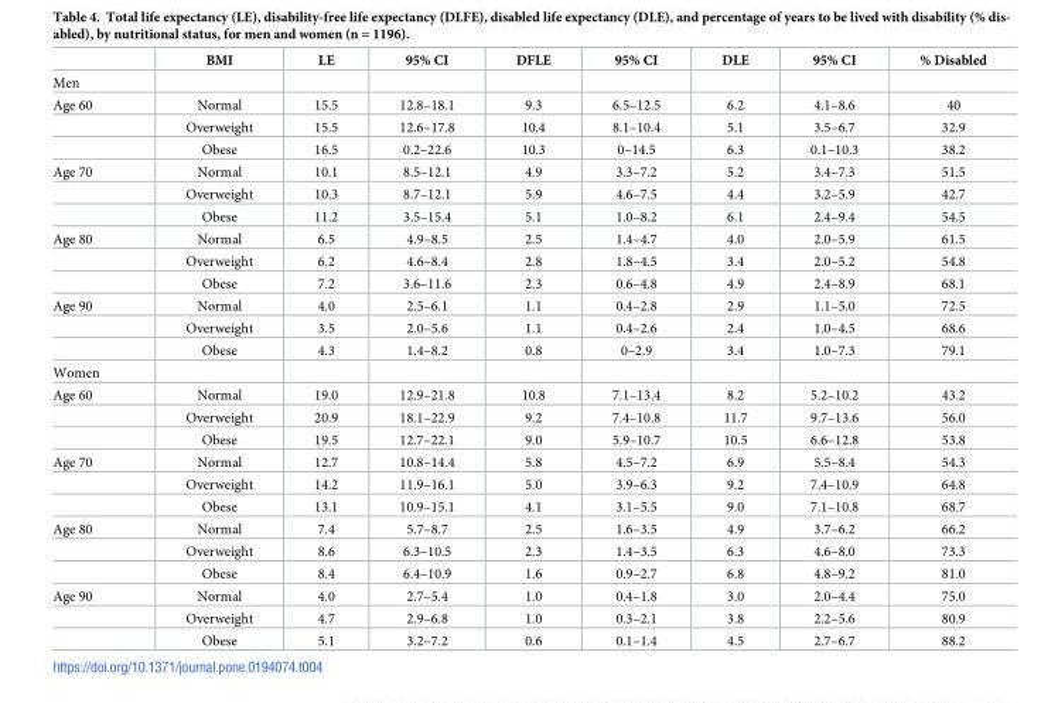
<table><thead><tr><td></td><td>BMI</td><td>LE</td><td>95% CI</td><td>DFLE</td><td>95% CI</td><td>DLE</td><td>95% CI</td><td>% Disabled</td></tr></thead><tbody><tr><td colspan="9">Men</td></tr><tr><td rowspan="3">Age 60</td><td>Normal</td><td>15.5</td><td>12.8–18.1</td><td>9.3</td><td>6.5–12.5</td><td>6.2</td><td>4.1–8.6</td><td>40</td></tr><tr><td>Overweight</td><td>15.5</td><td>12.6–17.8</td><td>10.4</td><td>8.1–10.4</td><td>5.1</td><td>3.5–6.7</td><td>32.9</td></tr><tr><td>Obese</td><td>16.5</td><td>0.2–22.6</td><td>10.3</td><td>0–14.5</td><td>6.3</td><td>0.1–10.3</td><td>38.2</td></tr><tr><td rowspan="3">Age 70</td><td>Normal</td><td>10.1</td><td>8.5–12.1</td><td>4.9</td><td>3.3–7.2</td><td>5.2</td><td>3.4–7.3</td><td>51.5</td></tr><tr><td>Overweight</td><td>10.3</td><td>8.7–12.1</td><td>5.9</td><td>4.6–7.5</td><td>4.4</td><td>3.2–5.9</td><td>42.7</td></tr><tr><td>Obese</td><td>11.2</td><td>3.5–15.4</td><td>5.1</td><td>1.0–8.2</td><td>6.1</td><td>2.4–9.4</td><td>54.5</td></tr><tr><td rowspan="3">Age 80</td><td>Normal</td><td>6.5</td><td>4.9–8.5</td><td>2.5</td><td>1.4–4.7</td><td>4.0</td><td>2.0–5.9</td><td>61.5</td></tr><tr><td>Overweight</td><td>6.2</td><td>4.6–8.4</td><td>2.8</td><td>1.8–4.5</td><td>3.4</td><td>2.0–5.2</td><td>54.8</td></tr><tr><td>Obese</td><td>7.2</td><td>3.6–11.6</td><td>2.3</td><td>0.6–4.8</td><td>4.9</td><td>2.4–8.9</td><td>68.1</td></tr><tr><td rowspan="3">Age 90</td><td>Normal</td><td>4.0</td><td>2.5–6.1</td><td>1.1</td><td>0.4–2.8</td><td>2.9</td><td>1.1–5.0</td><td>72.5</td></tr><tr><td>Overweight</td><td>3.5</td><td>2.0–5.6</td><td>1.1</td><td>0.4–2.6</td><td>2.4</td><td>1.0–4.5</td><td>68.6</td></tr><tr><td>Obese</td><td>4.3</td><td>1.4–8.2</td><td>0.8</td><td>0–2.9</td><td>3.4</td><td>1.0–7.3</td><td>79.1</td></tr><tr><td colspan="9">Women</td></tr><tr><td rowspan="3">Age 60</td><td>Normal</td><td>19.0</td><td>12.9–21.8</td><td>10.8</td><td>7.1–13.4</td><td>8.2</td><td>5.2–10.2</td><td>43.2</td></tr><tr><td>Overweight</td><td>20.9</td><td>18.1–22.9</td><td>9.2</td><td>7.4–10.8</td><td>11.7</td><td>9.7–13.6</td><td>56.0</td></tr><tr><td>Obese</td><td>19.5</td><td>12.7–22.1</td><td>9.0</td><td>5.9–10.7</td><td>10.5</td><td>6.6–12.8</td><td>53.8</td></tr><tr><td rowspan="3">Age 70</td><td>Normal</td><td>12.7</td><td>10.8–14.4</td><td>5.8</td><td>4.5–7.2</td><td>6.9</td><td>5.5–8.4</td><td>54.3</td></tr><tr><td>Overweight</td><td>14.2</td><td>11.9–16.1</td><td>5.0</td><td>3.9–6.3</td><td>9.2</td><td>7.4–10.9</td><td>64.8</td></tr><tr><td>Obese</td><td>13.1</td><td>10.9–15.1</td><td>4.1</td><td>3.1–5.5</td><td>9.0</td><td>7.1–10.8</td><td>68.7</td></tr><tr><td rowspan="3">Age 80</td><td>Normal</td><td>7.4</td><td>5.7–8.7</td><td>2.5</td><td>1.6–3.5</td><td>4.9</td><td>3.7–6.2</td><td>66.2</td></tr><tr><td>Overweight</td><td>8.6</td><td>6.3–10.5</td><td>2.3</td><td>1.4–3.5</td><td>6.3</td><td>4.6–8.0</td><td>73.3</td></tr><tr><td>Obese</td><td>8.4</td><td>6.4–10.9</td><td>1.6</td><td>0.9–2.7</td><td>6.8</td><td>4.8–9.2</td><td>81.0</td></tr><tr><td rowspan="3">Age 90</td><td>Normal</td><td>4.0</td><td>2.7–5.4</td><td>1.0</td><td>0.4–1.8</td><td>3.0</td><td>2.0–4.4</td><td>75.0</td></tr><tr><td>Overweight</td><td>4.7</td><td>2.9–6.8</td><td>1.0</td><td>0.3–2.1</td><td>3.8</td><td>2.2–5.6</td><td>80.9</td></tr><tr><td>Obese</td><td>5.1</td><td>3.2–7.2</td><td>0.6</td><td>0.1–1.4</td><td>4.5</td><td>2.7–6.7</td><td>88.2</td></tr></tbody></table>